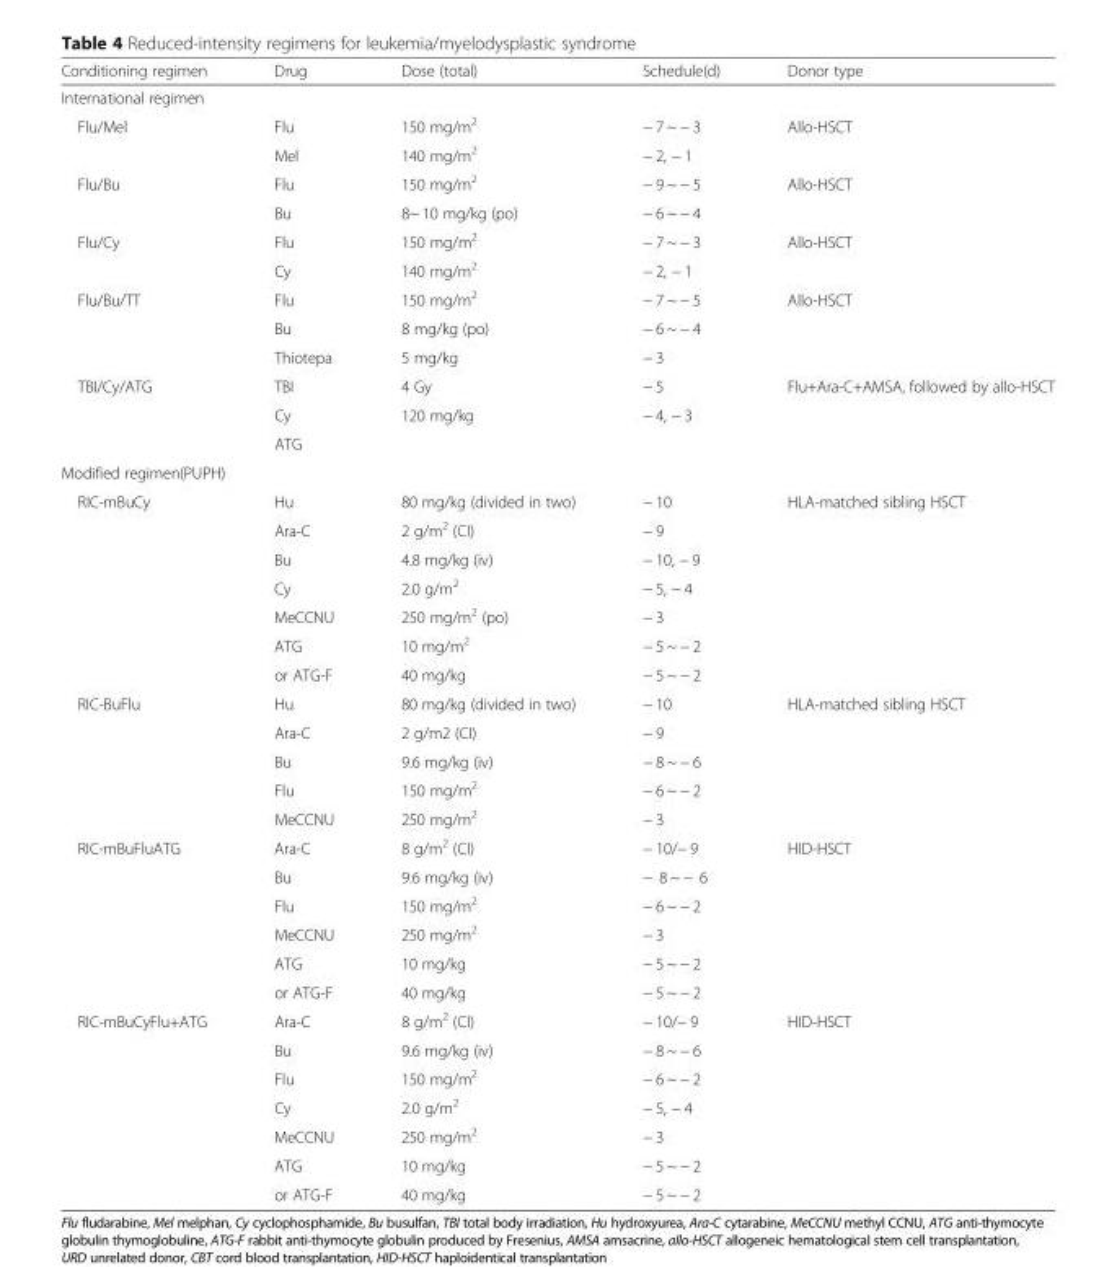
<table><thead><tr><td>Conditioning regimen</td><td>Drug</td><td>Dose (total)</td><td>Schedule(d)</td><td>Donor type</td></tr></thead><tbody><tr><td colspan="5">International regimen</td></tr><tr><td rowspan="2">Flu/Mel</td><td>Flu</td><td>150 mg/m<sup>2</sup></td><td>− 7 ~ − 3</td><td rowspan="2">Allo-HSCT</td></tr><tr><td>Mel</td><td>140 mg/m<sup>2</sup></td><td>− 2, − 1</td></tr><tr><td rowspan="2">Flu/Bu</td><td>Flu</td><td>150 mg/m<sup>2</sup></td><td>− 9 ~ − 5</td><td rowspan="2">Allo-HSCT</td></tr><tr><td>Bu</td><td>8~ 10 mg/kg (po)</td><td>− 6 ~ − 4</td></tr><tr><td rowspan="2">Flu/Cy</td><td>Flu</td><td>150 mg/m<sup>2</sup></td><td>− 7 ~ − 3</td><td rowspan="2">Allo-HSCT</td></tr><tr><td>Cy</td><td>140 mg/m<sup>2</sup></td><td>− 2, − 1</td></tr><tr><td rowspan="3">Flu/Bu/TT</td><td>Flu</td><td>150 mg/m<sup>2</sup></td><td>− 7 ~ − 5</td><td rowspan="3">Allo-HSCT</td></tr><tr><td>Bu</td><td>8 mg/kg (po)</td><td>− 6 ~ − 4</td></tr><tr><td>Thiotepa</td><td>5 mg/kg</td><td>− 3</td></tr><tr><td rowspan="3">TBI/Cy/ATG</td><td>TBI</td><td>4 Gy</td><td>− 5</td><td rowspan="3">Flu+Ara-C+AMSA, followed by allo-HSCT</td></tr><tr><td>Cy</td><td>120 mg/kg</td><td>− 4, − 3</td></tr><tr><td>ATG</td><td></td><td></td></tr><tr><td colspan="5">Modified regimen(PUPH)</td></tr><tr><td rowspan="7">RIC-mBuCy</td><td>Hu</td><td>80 mg/kg (divided in two)</td><td>− 10</td><td rowspan="7">HLA-matched sibling HSCT</td></tr><tr><td>Ara-C</td><td>2 g/m<sup>2</sup> (CI)</td><td>− 9</td></tr><tr><td>Bu</td><td>4.8 mg/kg (iv)</td><td>− 10, − 9</td></tr><tr><td>Cy</td><td>2.0 g/m<sup>2</sup></td><td>− 5, − 4</td></tr><tr><td>MeCCNU</td><td>250 mg/m<sup>2</sup> (po)</td><td>− 3</td></tr><tr><td>ATG</td><td>10 mg/m<sup>2</sup></td><td>− 5 ~ − 2</td></tr><tr><td>or ATG-F</td><td>40 mg/kg</td><td>− 5 ~ − 2</td></tr><tr><td rowspan="5">RIC-BuFlu</td><td>Hu</td><td>80 mg/kg (divided in two)</td><td>− 10</td><td rowspan="5">HLA-matched sibling HSCT</td></tr><tr><td>Ara-C</td><td>2 g/m2 (CI)</td><td>− 9</td></tr><tr><td>Bu</td><td>9.6 mg/kg (iv)</td><td>− 8 ~ − 6</td></tr><tr><td>Flu</td><td>150 mg/m<sup>2</sup></td><td>− 6 ~ − 2</td></tr><tr><td>MeCCNU</td><td>250 mg/m<sup>2</sup></td><td>− 3</td></tr><tr><td rowspan="6">RIC-mBuFluATG</td><td>Ara-C</td><td>8 g/m<sup>2</sup> (CI)</td><td>− 10/− 9</td><td rowspan="6">HID-HSCT</td></tr><tr><td>Bu</td><td>9.6 mg/kg (iv)</td><td>− 8 ~ − 6</td></tr><tr><td>Flu</td><td>150 mg/m<sup>2</sup></td><td>− 6 ~ − 2</td></tr><tr><td>MeCCNU</td><td>250 mg/m<sup>2</sup></td><td>− 3</td></tr><tr><td>ATG</td><td>10 mg/kg</td><td>− 5 ~ − 2</td></tr><tr><td>or ATG-F</td><td>40 mg/kg</td><td>− 5 ~ − 2</td></tr><tr><td rowspan="7">RIC-mBuCyFlu+ATG</td><td>Ara-C</td><td>8 g/m<sup>2</sup> (CI)</td><td>− 10/− 9</td><td rowspan="7">HID-HSCT</td></tr><tr><td>Bu</td><td>9.6 mg/kg (iv)</td><td>− 8 ~ − 6</td></tr><tr><td>Flu</td><td>150 mg/m<sup>2</sup></td><td>− 6 ~ − 2</td></tr><tr><td>Cy</td><td>2.0 g/m<sup>2</sup></td><td>− 5, − 4</td></tr><tr><td>MeCCNU</td><td>250 mg/m<sup>2</sup></td><td>− 3</td></tr><tr><td>ATG</td><td>10 mg/kg</td><td>− 5 ~ − 2</td></tr><tr><td>or ATG-F</td><td>40 mg/kg</td><td>− 5 ~ − 2</td></tr></tbody></table>